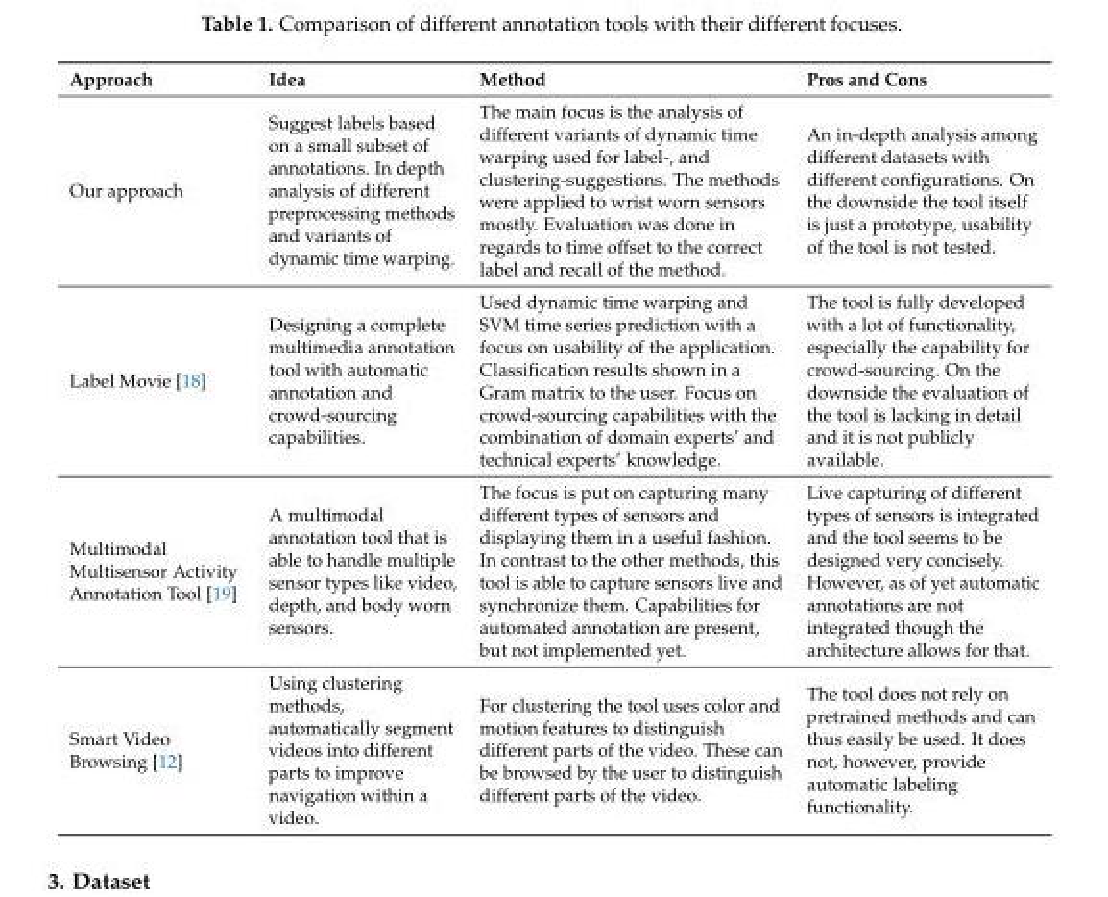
<table><thead><tr><td>Approach</td><td>Idea</td><td>Method</td><td>Pros and Cons</td></tr></thead><tbody><tr><td>Our approach</td><td>Suggest labels based on a small subset of annotations. In depth analysis of different preprocessing methods and variants of dynamic time warping.</td><td>The main focus is the analysis of different variants of dynamic time warping used for label-, and clustering-suggestions. The methods were applied to wrist worn sensors mostly. Evaluation was done in regards to time offset to the correct label and recall of the method.</td><td>An in-depth analysis among different datasets with different configurations. On the downside the tool itself is just a prototype, usability of the tool is not tested.</td></tr><tr><td>Label Movie [18]</td><td>Designing a complete multimedia annotation tool with automatic annotation and crowd-sourcing capabilities.</td><td>Used dynamic time warping and SVM time series prediction with a focus on usability of the application. Classification results shown in a Gram matrix to the user. Focus on crowd-sourcing capabilities with the combination of domain experts’ and technical experts’ knowledge.</td><td>The tool is fully developed with a lot of functionality, especially the capability for crowd-sourcing. On the downside the evaluation of the tool is lacking in detail and it is not publicly available.</td></tr><tr><td>Multimodal Multisensor Activity Annotation Tool [19]</td><td>A multimodal annotation tool that is able to handle multiple sensor types like video, depth, and body worn sensors.</td><td>The focus is put on capturing many different types of sensors and displaying them in a useful fashion. In contrast to the other methods, this tool is able to capture sensors live and synchronize them. Capabilities for automated annotation are present, but not implemented yet.</td><td>Live capturing of different types of sensors is integrated and the tool seems to be designed very concisely. However, as of yet automatic annotations are not integrated though the architecture allows for that.</td></tr><tr><td>Smart Video Browsing [12]</td><td>Using clustering methods, automatically segment videos into different parts to improve navigation within a video.</td><td>For clustering the tool uses color and motion features to distinguish different parts of the video. These can be browsed by the user to distinguish different parts of the video.</td><td>The tool does not rely on pretrained methods and can thus easily be used. It does not, however, provide automatic labeling functionality.</td></tr></tbody></table>